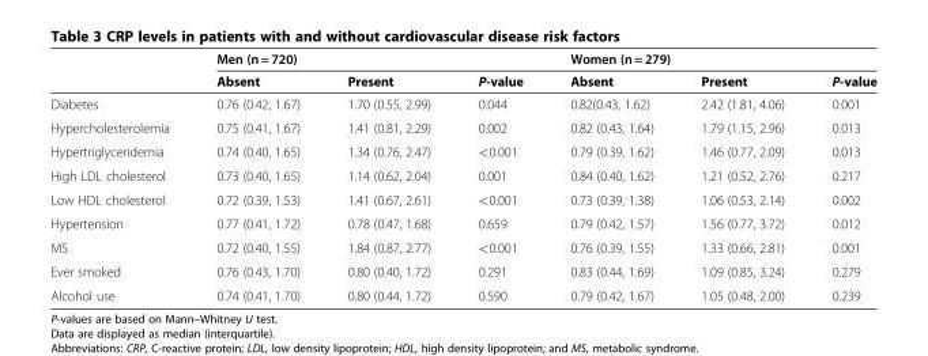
<table><thead><tr><td rowspan="2"></td><td colspan="3">Men (n = 720)</td><td colspan="3">Women (n = 279)</td></tr><tr><td>Absent</td><td>Present</td><td>P-value</td><td>Absent</td><td>Present</td><td>P-value</td></tr></thead><tbody><tr><td>Diabetes</td><td>0.76 (0.42, 1.67)</td><td>1.70 (0.55, 2.99)</td><td>0.044</td><td>0.82(0.43, 1.62)</td><td>2.42 (1.81, 4.06)</td><td>0.001</td></tr><tr><td>Hypercholesterolemia</td><td>0.75 (0.41, 1.67)</td><td>1.41 (0.81, 2.29)</td><td>0.002</td><td>0.82 (0.43, 1.64)</td><td>1.79 (1.15, 2.96)</td><td>0.013</td></tr><tr><td>Hypertriglyceridemia</td><td>0.74 (0.40, 1.65)</td><td>1.34 (0.76, 2.47)</td><td>&lt;0.001</td><td>0.79 (0.39, 1.62)</td><td>1.46 (0.77, 2.09)</td><td>0.013</td></tr><tr><td>High LDL cholesterol</td><td>0.73 (0.40, 1.65)</td><td>1.14 (0.62, 2.04)</td><td>0.001</td><td>0.84 (0.40, 1.62)</td><td>1.21 (0.52, 2.76)</td><td>0.217</td></tr><tr><td>Low HDL cholesterol</td><td>0.72 (0.39, 1.53)</td><td>1.41 (0.67, 2.61)</td><td>&lt;0.001</td><td>0.73 (0.39, 1.38)</td><td>1.06 (0.53, 2.14)</td><td>0.002</td></tr><tr><td>Hypertension</td><td>0.77 (0.41, 1.72)</td><td>0.78 (0.47, 1.68)</td><td>0.659</td><td>0.79 (0.42, 1.57)</td><td>1.56 (0.77, 3.72)</td><td>0.012</td></tr><tr><td>MS</td><td>0.72 (0.40, 1.55)</td><td>1.84 (0.87, 2.77)</td><td>&lt;0.001</td><td>0.76 (0.39, 1.55)</td><td>1.33 (0.66, 2.81)</td><td>0.001</td></tr><tr><td>Ever smoked</td><td>0.76 (0.43, 1.70)</td><td>0.80 (0.40, 1.72)</td><td>0.291</td><td>0.83 (0.44, 1.69)</td><td>1.09 (0.85, 3.24)</td><td>0.279</td></tr><tr><td>Alcohol use</td><td>0.74 (0.41, 1.70)</td><td>0.80 (0.44, 1.72)</td><td>0.590</td><td>0.79 (0.42, 1.67)</td><td>1.05 (0.48, 2.00)</td><td>0.239</td></tr></tbody></table>